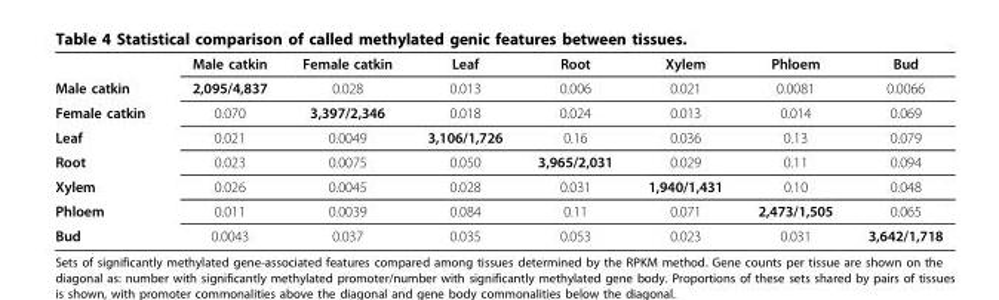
<table><thead><tr><td></td><td>Male catkin</td><td>Female catkin</td><td>Leaf</td><td>Root</td><td>Xylem</td><td>Phloem</td><td>Bud</td></tr></thead><tbody><tr><td>Male catkin</td><td>2,095/4,837</td><td>0.028</td><td>0.013</td><td>0.006</td><td>0.021</td><td>0.0081</td><td>0.0066</td></tr><tr><td>Female catkin</td><td>0.070</td><td>3,397/2,346</td><td>0.018</td><td>0.024</td><td>0.013</td><td>0.014</td><td>0.069</td></tr><tr><td>Leaf</td><td>0.021</td><td>0.0049</td><td>3,106/1,726</td><td>0.16</td><td>0.036</td><td>0.13</td><td>0.079</td></tr><tr><td>Root</td><td>0.023</td><td>0.0075</td><td>0.050</td><td>3,965/2,031</td><td>0.029</td><td>0.11</td><td>0.094</td></tr><tr><td>Xylem</td><td>0.026</td><td>0.0045</td><td>0.028</td><td>0.031</td><td>1,940/1,431</td><td>0.10</td><td>0.048</td></tr><tr><td>Phloem</td><td>0.011</td><td>0.0039</td><td>0.084</td><td>0.11</td><td>0.071</td><td>2,473/1,505</td><td>0.065</td></tr><tr><td>Bud</td><td>0.0043</td><td>0.037</td><td>0.035</td><td>0.053</td><td>0.023</td><td>0.031</td><td>3,642/1,718</td></tr></tbody></table>